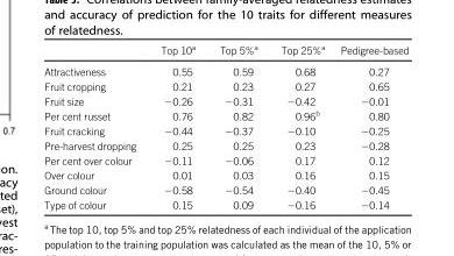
<table><thead><tr><td></td><td>Top 10<sup>a</sup></td><td>Top 5%<sup>a</sup></td><td>Top 25%<sup>a</sup></td><td>Pedigree-based</td></tr></thead><tbody><tr><td>Attractiveness</td><td>0.55</td><td>0.59</td><td>0.68</td><td>0.27</td></tr><tr><td>Fruit cropping</td><td>0.21</td><td>0.23</td><td>0.27</td><td>0.65</td></tr><tr><td>Fruit size</td><td>−0.26</td><td>−0.31</td><td>−0.42</td><td>−0.01</td></tr><tr><td>Per cent russet</td><td>0.76</td><td>0.82</td><td>0.96<sup>b</sup></td><td>0.80</td></tr><tr><td>Fruit cracking</td><td>−0.44</td><td>−0.37</td><td>−0.10</td><td>−0.25</td></tr><tr><td>Pre-harvest dropping</td><td>0.25</td><td>0.25</td><td>0.23</td><td>−0.28</td></tr><tr><td>Per cent over colour</td><td>−0.11</td><td>−0.06</td><td>0.17</td><td>0.12</td></tr><tr><td>Over colour</td><td>0.01</td><td>0.03</td><td>0.16</td><td>0.15</td></tr><tr><td>Ground colour</td><td>−0.58</td><td>−0.54</td><td>−0.40</td><td>−0.45</td></tr><tr><td>Type of colour</td><td>0.15</td><td>0.09</td><td>−0.16</td><td>−0.14</td></tr></tbody></table>